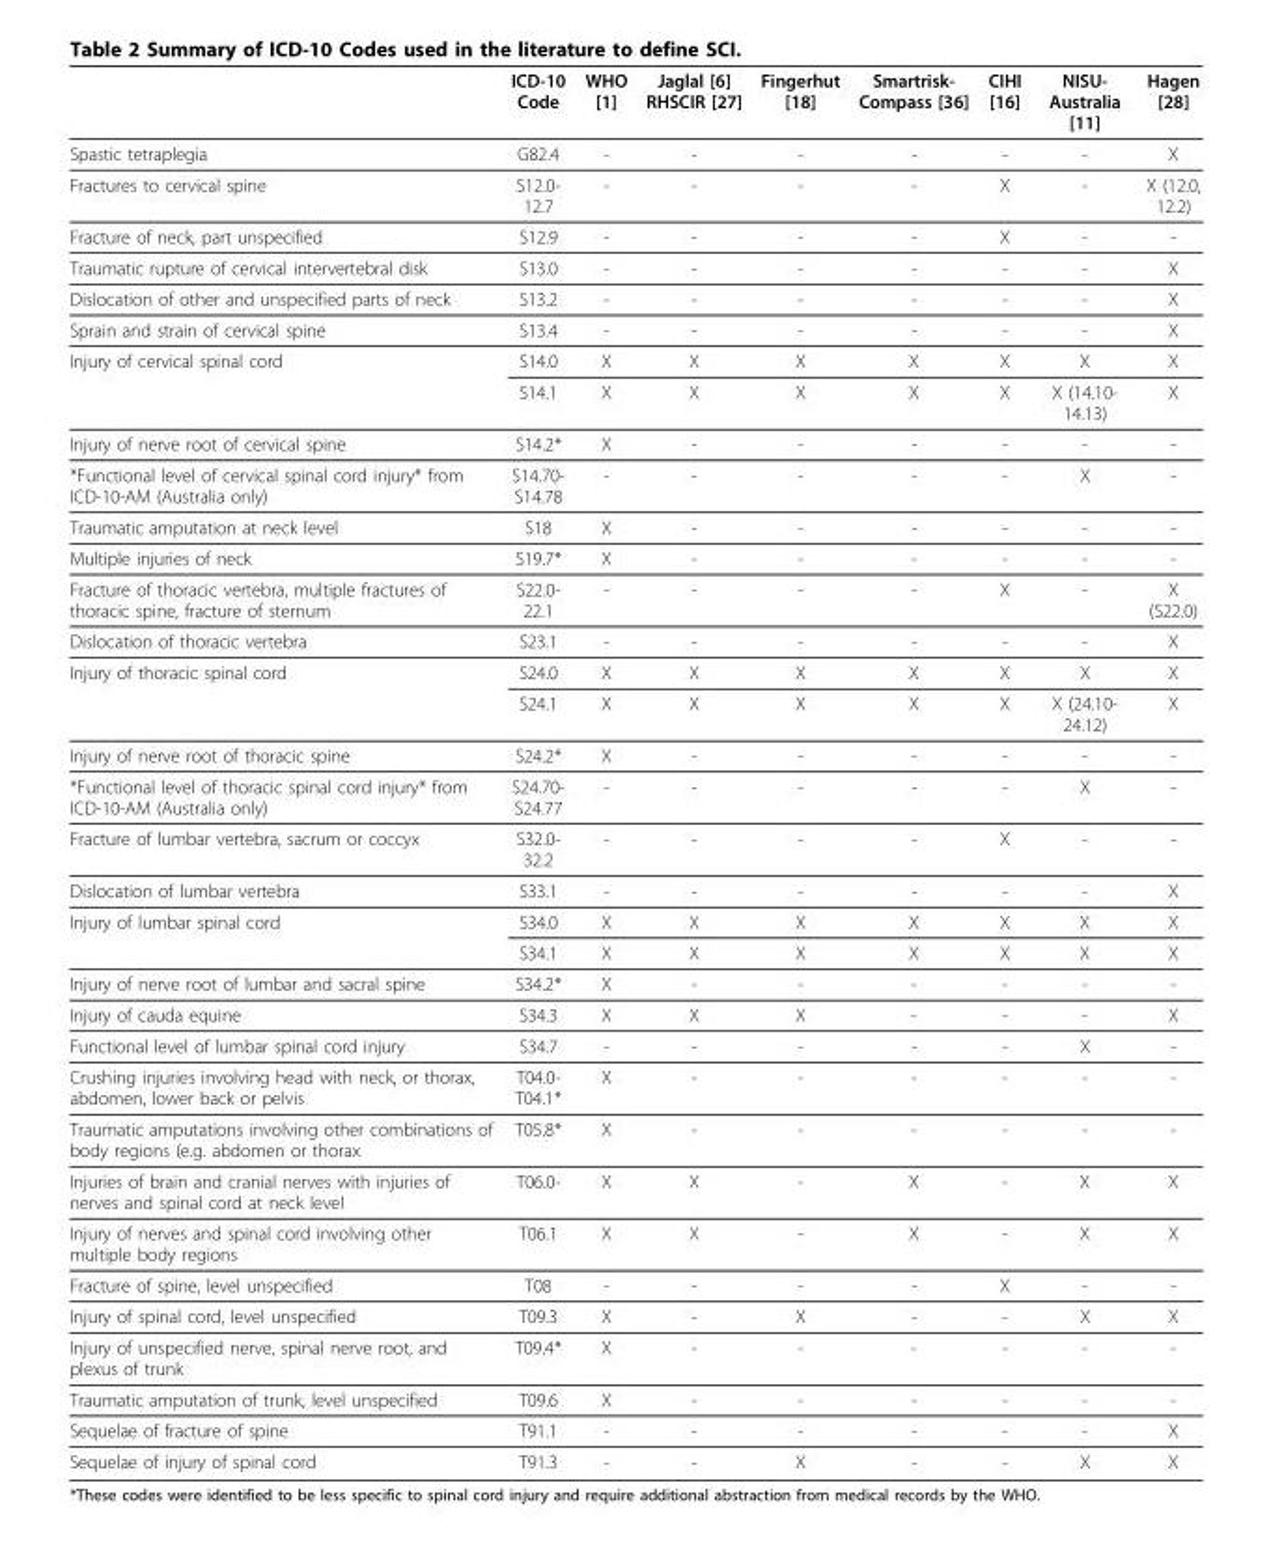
<table><thead><tr><td></td><td>ICD-10 Code</td><td>WHO [1]</td><td>Jaglal [6] RHSCIR [27]</td><td>Fingerhut [18]</td><td>Smartrisk- Compass [36]</td><td>CIHI [16]</td><td>NISU- Australia [11]</td><td>Hagen [28]</td></tr></thead><tbody><tr><td>Spastic tetraplegia</td><td>G82.4</td><td>-</td><td>-</td><td>-</td><td>-</td><td>-</td><td>-</td><td>X</td></tr><tr><td>Fractures to cervical spine</td><td>S12.0- 12.7</td><td>-</td><td>-</td><td>-</td><td>-</td><td>X</td><td>-</td><td>X (12.0, 12.2)</td></tr><tr><td>Fracture of neck, part unspecified</td><td>S12.9</td><td>-</td><td>-</td><td>-</td><td>-</td><td>X</td><td>-</td><td>-</td></tr><tr><td>Traumatic rupture of cervical intervertebral disk</td><td>S13.0</td><td>-</td><td>-</td><td>-</td><td>-</td><td>-</td><td>-</td><td>X</td></tr><tr><td>Dislocation of other and unspecified parts of neck</td><td>S13.2</td><td>-</td><td>-</td><td>-</td><td>-</td><td>-</td><td>-</td><td>X</td></tr><tr><td>Sprain and strain of cervical spine</td><td>S13.4</td><td>-</td><td>-</td><td>-</td><td>-</td><td>-</td><td>-</td><td>X</td></tr><tr><td rowspan="2">Injury of cervical spinal cord</td><td>S14.0</td><td>X</td><td>X</td><td>X</td><td>X</td><td>X</td><td>X</td><td>X</td></tr><tr><td>S14.1</td><td>X</td><td>X</td><td>X</td><td>X</td><td>X</td><td>X (14.10- 14.13)</td><td>X</td></tr><tr><td>Injury of nerve root of cervical spine</td><td>S14.2*</td><td>X</td><td>-</td><td>-</td><td>-</td><td>-</td><td>-</td><td>-</td></tr><tr><td>*Functional level of cervical spinal cord injury* from ICD-10-AM (Australia only)</td><td>S14.70- S14.78</td><td>-</td><td>-</td><td>-</td><td>-</td><td>-</td><td>X</td><td>-</td></tr><tr><td>Traumatic amputation at neck level</td><td>S18</td><td>X</td><td>-</td><td>-</td><td>-</td><td>-</td><td>-</td><td>-</td></tr><tr><td>Multiple injuries of neck</td><td>S19.7*</td><td>X</td><td>-</td><td>-</td><td>-</td><td>-</td><td>-</td><td>-</td></tr><tr><td>Fracture of thoracic vertebra, multiple fractures of thoracic spine, fracture of sternum</td><td>S22.0- 22.1</td><td>-</td><td>-</td><td>-</td><td>-</td><td>X</td><td>-</td><td>X (S22.0)</td></tr><tr><td>Dislocation of thoracic vertebra</td><td>S23.1</td><td>-</td><td>-</td><td>-</td><td>-</td><td>-</td><td>-</td><td>X</td></tr><tr><td rowspan="2">Injury of thoracic spinal cord</td><td>S24.0</td><td>X</td><td>X</td><td>X</td><td>X</td><td>X</td><td>X</td><td>X</td></tr><tr><td>S24.1</td><td>X</td><td>X</td><td>X</td><td>X</td><td>X</td><td>X (24.10- 24.12)</td><td>X</td></tr><tr><td>Injury of nerve root of thoracic spine</td><td>S24.2*</td><td>X</td><td>-</td><td>-</td><td>-</td><td>-</td><td>-</td><td>-</td></tr><tr><td>*Functional level of thoracic spinal cord injury* from ICD-10-AM (Australia only)</td><td>S24.70- S24.77</td><td>-</td><td>-</td><td>-</td><td>-</td><td>-</td><td>X</td><td>-</td></tr><tr><td>Fracture of lumbar vertebra, sacrum or coccyx</td><td>S32.0- 32.2</td><td>-</td><td>-</td><td>-</td><td>-</td><td>X</td><td>-</td><td>-</td></tr><tr><td>Dislocation of lumbar vertebra</td><td>S33.1</td><td>-</td><td>-</td><td>-</td><td>-</td><td>-</td><td>-</td><td>X</td></tr><tr><td rowspan="2">Injury of lumbar spinal cord</td><td>S34.0</td><td>X</td><td>X</td><td>X</td><td>X</td><td>X</td><td>X</td><td>X</td></tr><tr><td>S34.1</td><td>X</td><td>X</td><td>X</td><td>X</td><td>X</td><td>X</td><td>X</td></tr><tr><td>Injury of nerve root of lumbar and sacral spine</td><td>S34.2*</td><td>X</td><td>-</td><td>-</td><td>-</td><td>-</td><td>-</td><td>-</td></tr><tr><td>Injury of cauda equine</td><td>S34.3</td><td>X</td><td>X</td><td>X</td><td>-</td><td>-</td><td>-</td><td>X</td></tr><tr><td>Functional level of lumbar spinal cord injury</td><td>S34.7</td><td>-</td><td>-</td><td>-</td><td>-</td><td>-</td><td>X</td><td>-</td></tr><tr><td>Crushing injuries involving head with neck, or thorax, abdomen, lower back or pelvis</td><td>T04.0- T04.1*</td><td>X</td><td>-</td><td>-</td><td>-</td><td>-</td><td>-</td><td>-</td></tr><tr><td>Traumatic amputations involving other combinations of body regions (e.g. abdomen or thorax</td><td>T05.8*</td><td>X</td><td>-</td><td>-</td><td>-</td><td>-</td><td>-</td><td>-</td></tr><tr><td>Injuries of brain and cranial nerves with injuries of nerves and spinal cord at neck level</td><td>T06.0-</td><td>X</td><td>X</td><td>-</td><td>X</td><td>-</td><td>X</td><td>X</td></tr><tr><td>Injury of nerves and spinal cord involving other multiple body regions</td><td>T06.1</td><td>X</td><td>X</td><td>-</td><td>X</td><td>-</td><td>X</td><td>X</td></tr><tr><td>Fracture of spine, level unspecified</td><td>T08</td><td>-</td><td>-</td><td>-</td><td>-</td><td>X</td><td>-</td><td>-</td></tr><tr><td>Injury of spinal cord, level unspecified</td><td>T09.3</td><td>X</td><td>-</td><td>X</td><td>-</td><td>-</td><td>X</td><td>X</td></tr><tr><td>Injury of unspecified nerve, spinal nerve root, and plexus of trunk</td><td>T09.4*</td><td>X</td><td>-</td><td>-</td><td>-</td><td>-</td><td>-</td><td>-</td></tr><tr><td>Traumatic amputation of trunk, level unspecified</td><td>T09.6</td><td>X</td><td>-</td><td>-</td><td>-</td><td>-</td><td>-</td><td>-</td></tr><tr><td>Sequelae of fracture of spine</td><td>T91.1</td><td>-</td><td>-</td><td>-</td><td>-</td><td>-</td><td>-</td><td>X</td></tr><tr><td>Sequelae of injury of spinal cord</td><td>T91.3</td><td>-</td><td>-</td><td>X</td><td>-</td><td>-</td><td>X</td><td>X</td></tr></tbody></table>